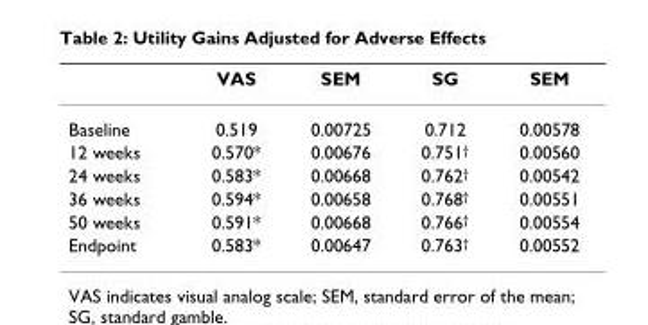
<table><thead><tr><td></td><td>VAS</td><td>SEM</td><td>SG</td><td>SEM</td></tr></thead><tbody><tr><td>Baseline</td><td>0.519</td><td>0.00725</td><td>0.712</td><td>0.00578</td></tr><tr><td>12 weeks</td><td>0.570*</td><td>0.00676</td><td>0.751<sup>†</sup></td><td>0.00560</td></tr><tr><td>24 weeks</td><td>0.583*</td><td>0.00668</td><td>0.762<sup>†</sup></td><td>0.00542</td></tr><tr><td>36 weeks</td><td>0.594*</td><td>0.00658</td><td>0.768<sup>†</sup></td><td>0.00551</td></tr><tr><td>50 weeks</td><td>0.591*</td><td>0.00668</td><td>0.766<sup>†</sup></td><td>0.00554</td></tr><tr><td>Endpoint</td><td>0.583*</td><td>0.00647</td><td>0.763<sup>†</sup></td><td>0.00552</td></tr></tbody></table>